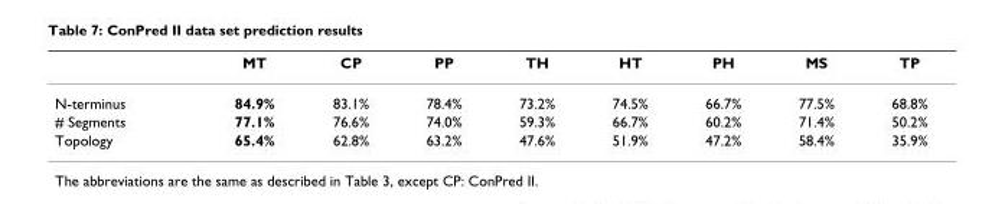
<table><thead><tr><td></td><td>MT</td><td>CP</td><td>PP</td><td>TH</td><td>HT</td><td>PH</td><td>MS</td><td>TP</td></tr></thead><tbody><tr><td>N-terminus</td><td>84.9%</td><td>83.1%</td><td>78.4%</td><td>73.2%</td><td>74.5%</td><td>66.7%</td><td>77.5%</td><td>68.8%</td></tr><tr><td># Segments</td><td>77.1%</td><td>76.6%</td><td>74.0%</td><td>59.3%</td><td>66.7%</td><td>60.2%</td><td>71.4%</td><td>50.2%</td></tr><tr><td>Topology</td><td>65.4%</td><td>62.8%</td><td>63.2%</td><td>47.6%</td><td>51.9%</td><td>47.2%</td><td>58.4%</td><td>35.9%</td></tr></tbody></table>